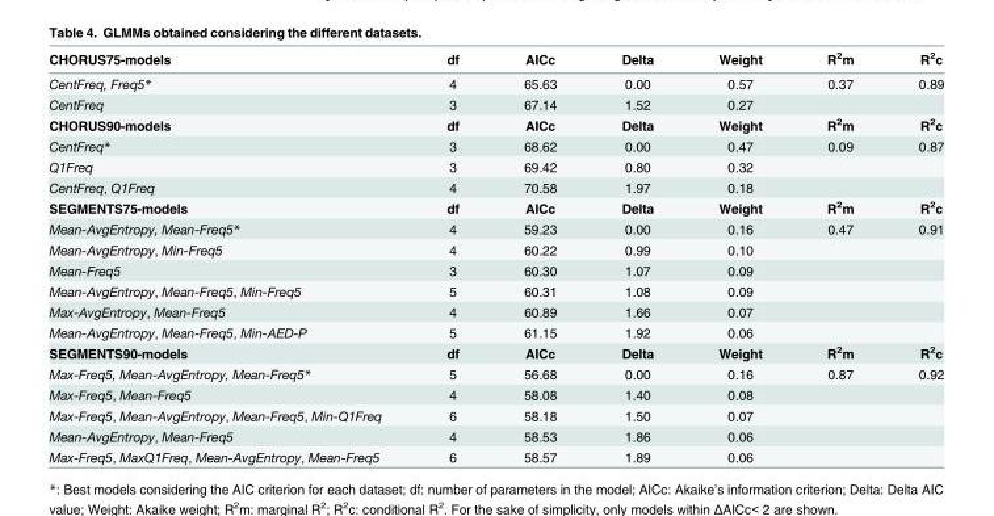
<table><thead><tr><td>CHORUS75-models</td><td>df</td><td>AICc</td><td>Delta</td><td>Weight</td><td>R<sup>2</sup>m</td><td>R<sup>2</sup>c</td></tr></thead><tbody><tr><td>CentFreq, Freq5*</td><td>4</td><td>65.63</td><td>0.00</td><td>0.57</td><td>0.37</td><td>0.89</td></tr><tr><td>CentFreq</td><td>3</td><td>67.14</td><td>1.52</td><td>0.27</td><td></td><td></td></tr><tr><td>CHORUS90-models</td><td>df</td><td>AICc</td><td>Delta</td><td>Weight</td><td>R<sup>2</sup>m</td><td>R<sup>2</sup>c</td></tr><tr><td>CentFreq*</td><td>3</td><td>68.62</td><td>0.00</td><td>0.47</td><td>0.09</td><td>0.87</td></tr><tr><td>Q1Freq</td><td>3</td><td>69.42</td><td>0.80</td><td>0.32</td><td></td><td></td></tr><tr><td>CentFreq, Q1Freq</td><td>4</td><td>70.58</td><td>1.97</td><td>0.18</td><td></td><td></td></tr><tr><td>SEGMENTS75-models</td><td>df</td><td>AICc</td><td>Delta</td><td>Weight</td><td>R<sup>2</sup>m</td><td>R<sup>2</sup>c</td></tr><tr><td>Mean-AvgEntropy, Mean-Freq5*</td><td>4</td><td>59.23</td><td>0.00</td><td>0.16</td><td>0.47</td><td>0.91</td></tr><tr><td>Mean-AvgEntropy, Min-Freq5</td><td>4</td><td>60.22</td><td>0.99</td><td>0.10</td><td></td><td></td></tr><tr><td>Mean-Freq5</td><td>3</td><td>60.30</td><td>1.07</td><td>0.09</td><td></td><td></td></tr><tr><td>Mean-AvgEntropy, Mean-Freq5, Min-Freq5</td><td>5</td><td>60.31</td><td>1.08</td><td>0.09</td><td></td><td></td></tr><tr><td>Max-AvgEntropy, Mean-Freq5</td><td>4</td><td>60.89</td><td>1.66</td><td>0.07</td><td></td><td></td></tr><tr><td>Mean-AvgEntropy, Mean-Freq5, Min-AED-P</td><td>5</td><td>61.15</td><td>1.92</td><td>0.06</td><td></td><td></td></tr><tr><td>SEGMENTS90-models</td><td>df</td><td>AICc</td><td>Delta</td><td>Weight</td><td>R<sup>2</sup>m</td><td>R<sup>2</sup>c</td></tr><tr><td>Max-Freq5, Mean-AvgEntropy, Mean-Freq5*</td><td>5</td><td>56.68</td><td>0.00</td><td>0.16</td><td>0.87</td><td>0.92</td></tr><tr><td>Max-Freq5, Mean-Freq5</td><td>4</td><td>58.08</td><td>1.40</td><td>0.08</td><td></td><td></td></tr><tr><td>Max-Freq5, Mean-AvgEntropy, Mean-Freq5, Min-Q1Freq</td><td>6</td><td>58.18</td><td>1.50</td><td>0.07</td><td></td><td></td></tr><tr><td>Mean-AvgEntropy, Mean-Freq5</td><td>4</td><td>58.53</td><td>1.86</td><td>0.06</td><td></td><td></td></tr><tr><td>Max-Freq5, MaxQ1Freq, Mean-AvgEntropy, Mean-Freq5</td><td>6</td><td>58.57</td><td>1.89</td><td>0.06</td><td></td><td></td></tr></tbody></table>